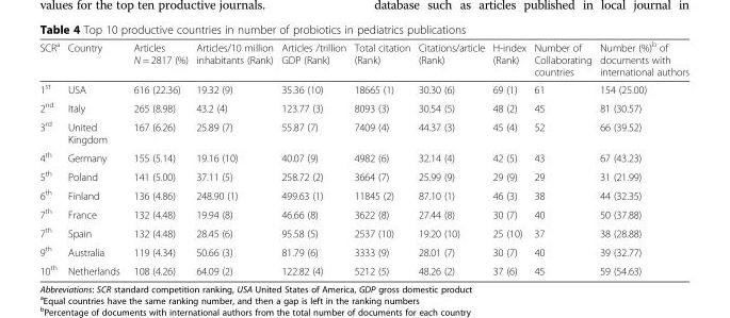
<table><thead><tr><td>SCR<sup>a</sup></td><td>Country</td><td>Articles N = 2817 (%)</td><td>Articles/10 million inhabitants (Rank)</td><td>Articles /trillion GDP (Rank)</td><td>Total citation (Rank)</td><td>Citations/article (Rank)</td><td>H-index (Rank)</td><td>Number of Collaborating countries</td><td>Number (%)<sup>b</sup> of documents with international authors</td></tr></thead><tbody><tr><td>1<sup>st</sup></td><td>USA</td><td>616 (22.36)</td><td>19.32 (9)</td><td>35.36 (10)</td><td>18665 (1)</td><td>30.30 (6)</td><td>69 (1)</td><td>61</td><td>154 (25.00)</td></tr><tr><td>2<sup>nd</sup></td><td>Italy</td><td>265 (8.98)</td><td>43.2 (4)</td><td>123.77 (3)</td><td>8093 (3)</td><td>30.54 (5)</td><td>48 (2)</td><td>45</td><td>81 (30.57)</td></tr><tr><td>3<sup>rd</sup></td><td>United Kingdom</td><td>167 (6.26)</td><td>25.89 (7)</td><td>55.87 (7)</td><td>7409 (4)</td><td>44.37 (3)</td><td>45 (4)</td><td>52</td><td>66 (39.52)</td></tr><tr><td>4<sup>th</sup></td><td>Germany</td><td>155 (5.14)</td><td>19.16 (10)</td><td>40.07 (9)</td><td>4982 (6)</td><td>32.14 (4)</td><td>42 (5)</td><td>43</td><td>67 (43.23)</td></tr><tr><td>5<sup>th</sup></td><td>Poland</td><td>141 (5.00)</td><td>37.11 (5)</td><td>258.72 (2)</td><td>3664 (7)</td><td>25.99 (9)</td><td>29 (9)</td><td>29</td><td>31 (21.99)</td></tr><tr><td>6<sup>th</sup></td><td>Finland</td><td>136 (4.86)</td><td>248.90 (1)</td><td>499.63 (1)</td><td>11845 (2)</td><td>87.10 (1)</td><td>46 (3)</td><td>38</td><td>44 (32.35)</td></tr><tr><td>7<sup>th</sup></td><td>France</td><td>132 (4.48)</td><td>19.94 (8)</td><td>46.66 (8)</td><td>3622 (8)</td><td>27.44 (8)</td><td>30 (7)</td><td>40</td><td>50 (37.88)</td></tr><tr><td>7<sup>th</sup></td><td>Spain</td><td>132 (4.48)</td><td>28.45 (6)</td><td>95.58 (5)</td><td>2537 (10)</td><td>19.20 (10)</td><td>25 (10)</td><td>37</td><td>38 (28.88)</td></tr><tr><td>9<sup>th</sup></td><td>Australia</td><td>119 (4.34)</td><td>50.66 (3)</td><td>81.79 (6)</td><td>3333 (9)</td><td>28.01 (7)</td><td>30 (7)</td><td>40</td><td>39 (32.77)</td></tr><tr><td>10<sup>th</sup></td><td>Netherlands</td><td>108 (4.26)</td><td>64.09 (2)</td><td>122.82 (4)</td><td>5212 (5)</td><td>48.26 (2)</td><td>37 (6)</td><td>45</td><td>59 (54.63)</td></tr></tbody></table>